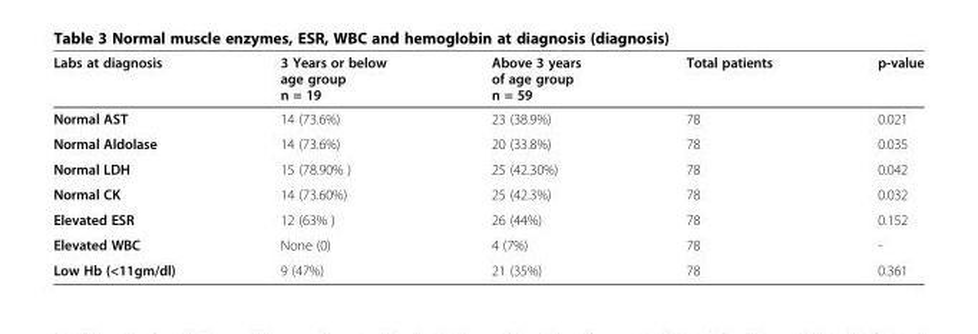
<table><thead><tr><td>Labs at diagnosis</td><td>3 Years or below age group n = 19</td><td>Above 3 years of age group n = 59</td><td>Total patients</td><td>p-value</td></tr></thead><tbody><tr><td>Normal AST</td><td>14 (73.6%)</td><td>23 (38.9%)</td><td>78</td><td>0.021</td></tr><tr><td>Normal Aldolase</td><td>14 (73.6%)</td><td>20 (33.8%)</td><td>78</td><td>0.035</td></tr><tr><td>Normal LDH</td><td>15 (78.90% )</td><td>25 (42.30%)</td><td>78</td><td>0.042</td></tr><tr><td>Normal CK</td><td>14 (73.60%)</td><td>25 (42.3%)</td><td>78</td><td>0.032</td></tr><tr><td>Elevated ESR</td><td>12 (63% )</td><td>26 (44%)</td><td>78</td><td>0.152</td></tr><tr><td>Elevated WBC</td><td>None (0)</td><td>4 (7%)</td><td>78</td><td>-</td></tr><tr><td>Low Hb (&lt;11gm/dl)</td><td>9 (47%)</td><td>21 (35%)</td><td>78</td><td>0.361</td></tr></tbody></table>